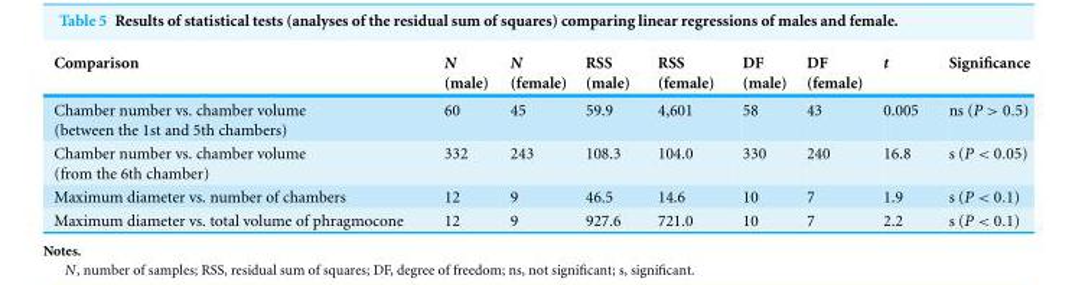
<table><thead><tr><td>Comparison</td><td>N (male)</td><td>N (female)</td><td>RSS (male)</td><td>RSS (female)</td><td>DF (male)</td><td>DF (female)</td><td>t</td><td>Significance</td></tr></thead><tbody><tr><td>Chamber number vs. chamber volume (between the 1st and 5th chambers)</td><td>60</td><td>45</td><td>59.9</td><td>4,601</td><td>58</td><td>43</td><td>0.005</td><td>ns (P &gt; 0.5)</td></tr><tr><td>Chamber number vs. chamber volume (from the 6th chamber)</td><td>332</td><td>243</td><td>108.3</td><td>104.0</td><td>330</td><td>240</td><td>16.8</td><td>s (P &lt; 0.05)</td></tr><tr><td>Maximum diameter vs. number of chambers</td><td>12</td><td>9</td><td>46.5</td><td>14.6</td><td>10</td><td>7</td><td>1.9</td><td>s (P &lt; 0.1)</td></tr><tr><td>Maximum diameter vs. total volume of phragmocone</td><td>12</td><td>9</td><td>927.6</td><td>721.0</td><td>10</td><td>7</td><td>2.2</td><td>s (P &lt; 0.1)</td></tr></tbody></table>